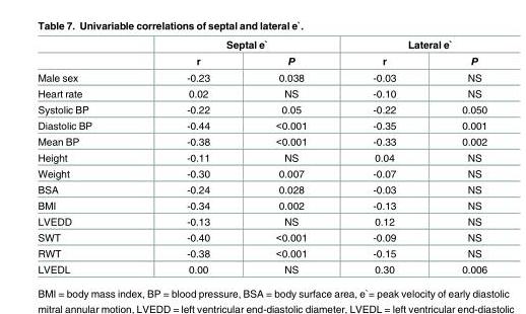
<table><thead><tr><td rowspan="2"></td><td colspan="2">Septal e`</td><td colspan="2">Lateral e`</td></tr><tr><td>r</td><td>P</td><td>r</td><td>P</td></tr></thead><tbody><tr><td>Male sex</td><td>-0.23</td><td>0.038</td><td>-0.03</td><td>NS</td></tr><tr><td>Heart rate</td><td>0.02</td><td>NS</td><td>-0.10</td><td>NS</td></tr><tr><td>Systolic BP</td><td>-0.22</td><td>0.05</td><td>-0.22</td><td>0.050</td></tr><tr><td>Diastolic BP</td><td>-0.44</td><td>&lt;0.001</td><td>-0.35</td><td>0.001</td></tr><tr><td>Mean BP</td><td>-0.38</td><td>&lt;0.001</td><td>-0.33</td><td>0.002</td></tr><tr><td>Height</td><td>-0.11</td><td>NS</td><td>0.04</td><td>NS</td></tr><tr><td>Weight</td><td>-0.30</td><td>0.007</td><td>-0.07</td><td>NS</td></tr><tr><td>BSA</td><td>-0.24</td><td>0.028</td><td>-0.03</td><td>NS</td></tr><tr><td>BMI</td><td>-0.34</td><td>0.002</td><td>-0.13</td><td>NS</td></tr><tr><td>LVEDD</td><td>-0.13</td><td>NS</td><td>0.12</td><td>NS</td></tr><tr><td>SWT</td><td>-0.40</td><td>&lt;0.001</td><td>-0.09</td><td>NS</td></tr><tr><td>RWT</td><td>-0.38</td><td>&lt;0.001</td><td>-0.15</td><td>NS</td></tr><tr><td>LVEDL</td><td>0.00</td><td>NS</td><td>0.30</td><td>0.006</td></tr></tbody></table>